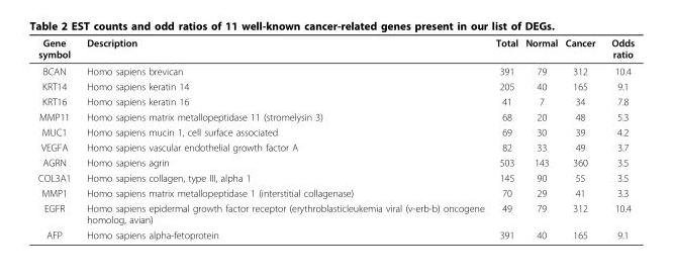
<table><thead><tr><td>Gene symbol</td><td>Description</td><td>Total</td><td>Normal</td><td>Cancer</td><td>Odds ratio</td></tr></thead><tbody><tr><td>BCAN</td><td>Homo sapiens brevican</td><td>391</td><td>79</td><td>312</td><td>10.4</td></tr><tr><td>KRT14</td><td>Homo sapiens keratin 14</td><td>205</td><td>40</td><td>165</td><td>9.1</td></tr><tr><td>KRT16</td><td>Homo sapiens keratin 16</td><td>41</td><td>7</td><td>34</td><td>7.8</td></tr><tr><td>MMP11</td><td>Homo sapiens matrix metallopeptidase 11 (stromelysin 3)</td><td>68</td><td>20</td><td>48</td><td>5.3</td></tr><tr><td>MUC1</td><td>Homo sapiens mucin 1, cell surface associated</td><td>69</td><td>30</td><td>39</td><td>4.2</td></tr><tr><td>VEGFA</td><td>Homo sapiens vascular endothelial growth factor A</td><td>82</td><td>33</td><td>49</td><td>3.7</td></tr><tr><td>AGRN</td><td>Homo sapiens agrin</td><td>503</td><td>143</td><td>360</td><td>3.5</td></tr><tr><td>COL3A1</td><td>Homo sapiens collagen, type III, alpha 1</td><td>145</td><td>90</td><td>55</td><td>3.5</td></tr><tr><td>MMP1</td><td>Homo sapiens matrix metallopeptidase 1 (interstitial collagenase)</td><td>70</td><td>29</td><td>41</td><td>3.3</td></tr><tr><td>EGFR</td><td>Homo sapiens epidermal growth factor receptor (erythroblasticleukemia viral (v-erb-b) oncogene homolog, avian)</td><td>49</td><td>79</td><td>312</td><td>10.4</td></tr><tr><td>AFP</td><td>Homo sapiens alpha-fetoprotein</td><td>391</td><td>40</td><td>165</td><td>9.1</td></tr></tbody></table>